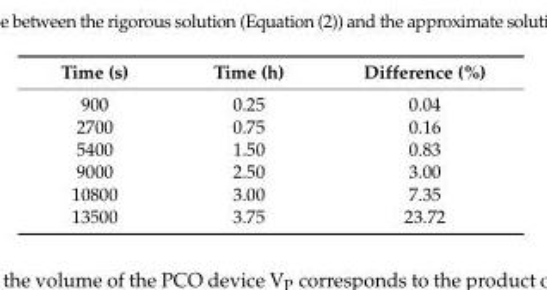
<table><thead><tr><td>Time (s)</td><td>Time (h)</td><td>Difference (%)</td></tr></thead><tbody><tr><td>900</td><td>0.25</td><td>0.04</td></tr><tr><td>2700</td><td>0.75</td><td>0.16</td></tr><tr><td>5400</td><td>1.50</td><td>0.83</td></tr><tr><td>9000</td><td>2.50</td><td>3.00</td></tr><tr><td>10800</td><td>3.00</td><td>7.35</td></tr><tr><td>13500</td><td>3.75</td><td>23.72</td></tr></tbody></table>